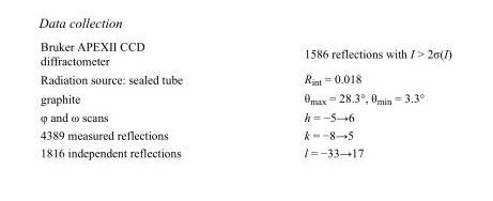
<table><tbody><tr><td>Bruker APEXII CCD diffractometer</td><td>1586 reflections with I &gt; 2σ(I)</td></tr><tr><td>Radiation source: sealed tube</td><td>R<sub>int</sub> = 0.018</td></tr><tr><td>graphite</td><td>θ<sub>max</sub> = 28.3°, θ<sub>min</sub> = 3.3°</td></tr><tr><td>φ and ω scans</td><td>h = −5→6</td></tr><tr><td>4389 measured reflections</td><td>k = −8→5</td></tr><tr><td>1816 independent reflections</td><td>l = −33→17</td></tr></tbody></table>